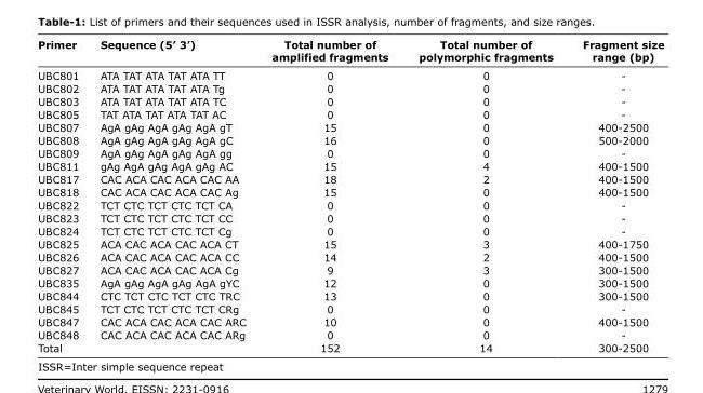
<table><thead><tr><td>Primer</td><td>Sequence (5’ 3’)</td><td>Total number of amplified fragments</td><td>Total number of polymorphic fragments</td><td>Fragment size range (bp)</td></tr></thead><tbody><tr><td>UBC801</td><td>ATA TAT ATA TAT ATA TT</td><td>0</td><td>0</td><td>-</td></tr><tr><td>UBC802</td><td>ATA TAT ATA TAT ATA Tg</td><td>0</td><td>0</td><td>-</td></tr><tr><td>UBC803</td><td>ATA TAT ATA TAT ATA TC</td><td>0</td><td>0</td><td>-</td></tr><tr><td>UBC805</td><td>TAT ATA TAT ATA TAT AC</td><td>0</td><td>0</td><td>-</td></tr><tr><td>UBC807</td><td>AgA gAg AgA gAg AgA gT</td><td>15</td><td>0</td><td>400-2500</td></tr><tr><td>UBC808</td><td>AgA gAg AgA gAg AgA gC</td><td>16</td><td>0</td><td>500-2000</td></tr><tr><td>UBC809</td><td>AgA gAg AgA gAg AgA gg</td><td>0</td><td>0</td><td>-</td></tr><tr><td>UBC811</td><td>gAg AgA gAg AgA gAg AC</td><td>15</td><td>4</td><td>400-1500</td></tr><tr><td>UBC817</td><td>CAC ACA CAC ACA CAC AA</td><td>18</td><td>2</td><td>400-1500</td></tr><tr><td>UBC818</td><td>CAC ACA CAC ACA CAC Ag</td><td>15</td><td>0</td><td>400-1500</td></tr><tr><td>UBC822</td><td>TCT CTC TCT CTC TCT CA</td><td>0</td><td>0</td><td>-</td></tr><tr><td>UBC823</td><td>TCT CTC TCT CTC TCT CC</td><td>0</td><td>0</td><td>-</td></tr><tr><td>UBC824</td><td>TCT CTC TCT CTC TCT Cg</td><td>0</td><td>0</td><td>-</td></tr><tr><td>UBC825</td><td>ACA CAC ACA CAC ACA CT</td><td>15</td><td>3</td><td>400-1750</td></tr><tr><td>UBC826</td><td>ACA CAC ACA CAC ACA CC</td><td>14</td><td>2</td><td>400-1500</td></tr><tr><td>UBC827</td><td>ACA CAC ACA CAC ACA Cg</td><td>9</td><td>3</td><td>300-1500</td></tr><tr><td>UBC835</td><td>AgA gAg AgA gAg AgA gYC</td><td>12</td><td>0</td><td>300-1500</td></tr><tr><td>UBC844</td><td>CTC TCT CTC TCT CTC TRC</td><td>13</td><td>0</td><td>300-1500</td></tr><tr><td>UBC845</td><td>TCT CTC TCT CTC TCT CRg</td><td>0</td><td>0</td><td>-</td></tr><tr><td>UBC847</td><td>CAC ACA CAC ACA CAC ARC</td><td>10</td><td>0</td><td>400-1500</td></tr><tr><td>UBC848</td><td>CAC ACA CAC ACA CAC ARg</td><td>0</td><td>0</td><td>-</td></tr><tr><td>Total</td><td></td><td>152</td><td>14</td><td>300-2500</td></tr></tbody></table>